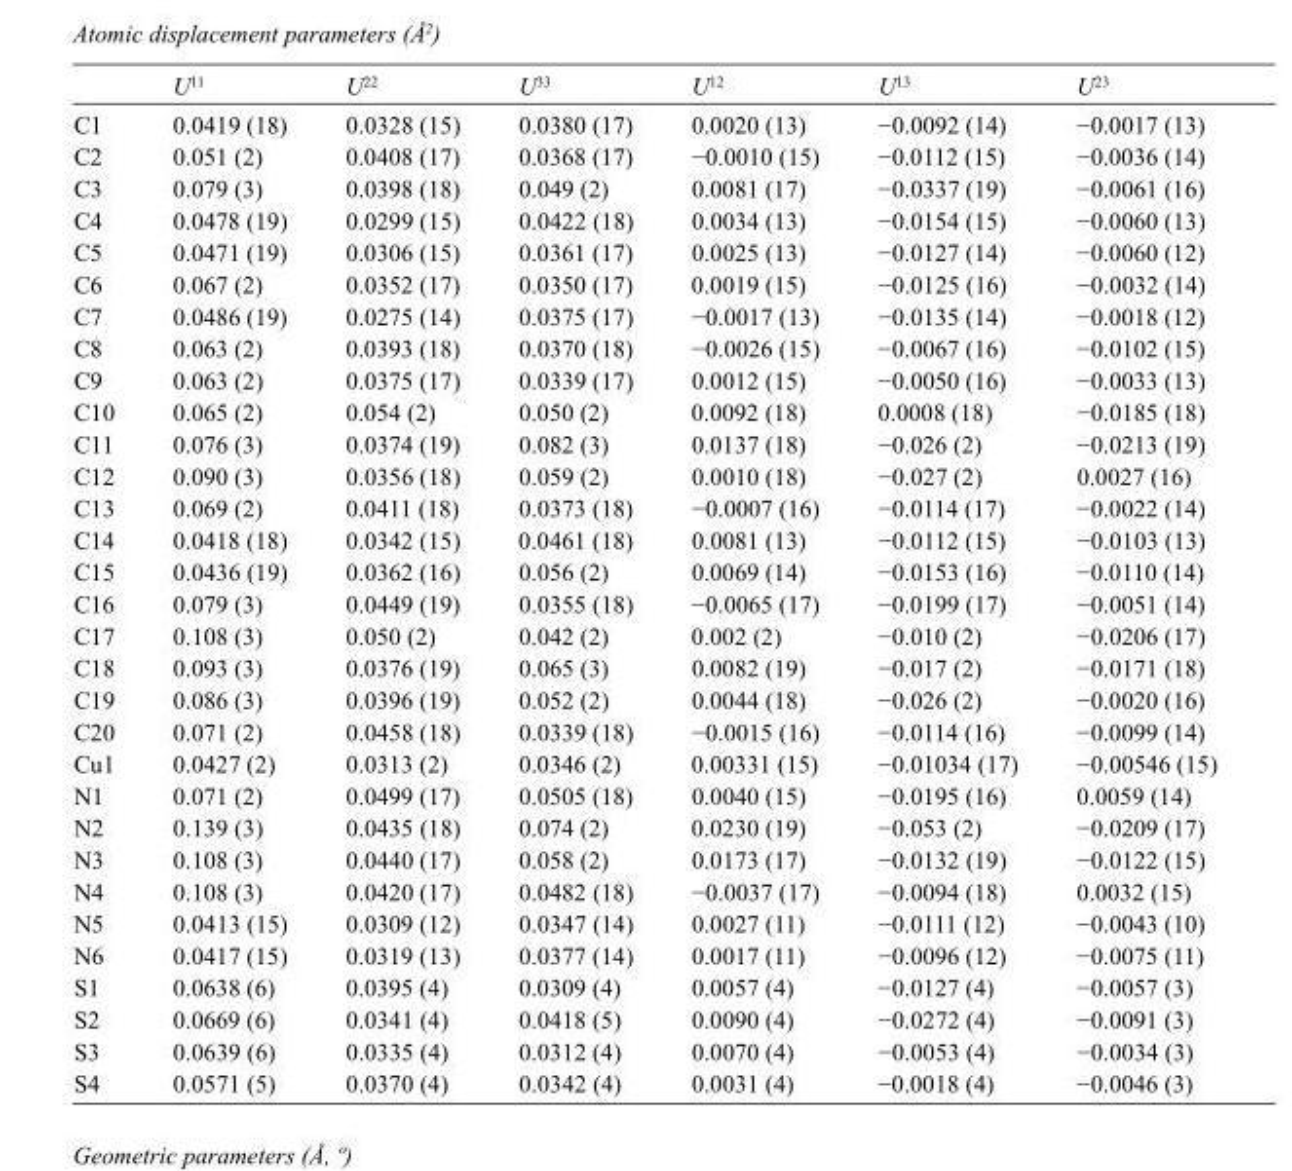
<table><thead><tr><td></td><td>U<sup>11</sup></td><td>U<sup>22</sup></td><td>U<sup>33</sup></td><td>U<sup>12</sup></td><td>U<sup>13</sup></td><td>U<sup>23</sup></td></tr></thead><tbody><tr><td>C1</td><td>0.0419 (18)</td><td>0.0328 (15)</td><td>0.0380 (17)</td><td>0.0020 (13)</td><td>−0.0092 (14)</td><td>−0.0017 (13)</td></tr><tr><td>C2</td><td>0.051 (2)</td><td>0.0408 (17)</td><td>0.0368 (17)</td><td>−0.0010 (15)</td><td>−0.0112 (15)</td><td>−0.0036 (14)</td></tr><tr><td>C3</td><td>0.079 (3)</td><td>0.0398 (18)</td><td>0.049 (2)</td><td>0.0081 (17)</td><td>−0.0337 (19)</td><td>−0.0061 (16)</td></tr><tr><td>C4</td><td>0.0478 (19)</td><td>0.0299 (15)</td><td>0.0422 (18)</td><td>0.0034 (13)</td><td>−0.0154 (15)</td><td>−0.0060 (13)</td></tr><tr><td>C5</td><td>0.0471 (19)</td><td>0.0306 (15)</td><td>0.0361 (17)</td><td>0.0025 (13)</td><td>−0.0127 (14)</td><td>−0.0060 (12)</td></tr><tr><td>C6</td><td>0.067 (2)</td><td>0.0352 (17)</td><td>0.0350 (17)</td><td>0.0019 (15)</td><td>−0.0125 (16)</td><td>−0.0032 (14)</td></tr><tr><td>C7</td><td>0.0486 (19)</td><td>0.0275 (14)</td><td>0.0375 (17)</td><td>−0.0017 (13)</td><td>−0.0135 (14)</td><td>−0.0018 (12)</td></tr><tr><td>C8</td><td>0.063 (2)</td><td>0.0393 (18)</td><td>0.0370 (18)</td><td>−0.0026 (15)</td><td>−0.0067 (16)</td><td>−0.0102 (15)</td></tr><tr><td>C9</td><td>0.063 (2)</td><td>0.0375 (17)</td><td>0.0339 (17)</td><td>0.0012 (15)</td><td>−0.0050 (16)</td><td>−0.0033 (13)</td></tr><tr><td>C10</td><td>0.065 (2)</td><td>0.054 (2)</td><td>0.050 (2)</td><td>0.0092 (18)</td><td>0.0008 (18)</td><td>−0.0185 (18)</td></tr><tr><td>C11</td><td>0.076 (3)</td><td>0.0374 (19)</td><td>0.082 (3)</td><td>0.0137 (18)</td><td>−0.026 (2)</td><td>−0.0213 (19)</td></tr><tr><td>C12</td><td>0.090 (3)</td><td>0.0356 (18)</td><td>0.059 (2)</td><td>0.0010 (18)</td><td>−0.027 (2)</td><td>0.0027 (16)</td></tr><tr><td>C13</td><td>0.069 (2)</td><td>0.0411 (18)</td><td>0.0373 (18)</td><td>−0.0007 (16)</td><td>−0.0114 (17)</td><td>−0.0022 (14)</td></tr><tr><td>C14</td><td>0.0418 (18)</td><td>0.0342 (15)</td><td>0.0461 (18)</td><td>0.0081 (13)</td><td>−0.0112 (15)</td><td>−0.0103 (13)</td></tr><tr><td>C15</td><td>0.0436 (19)</td><td>0.0362 (16)</td><td>0.056 (2)</td><td>0.0069 (14)</td><td>−0.0153 (16)</td><td>−0.0110 (14)</td></tr><tr><td>C16</td><td>0.079 (3)</td><td>0.0449 (19)</td><td>0.0355 (18)</td><td>−0.0065 (17)</td><td>−0.0199 (17)</td><td>−0.0051 (14)</td></tr><tr><td>C17</td><td>0.108 (3)</td><td>0.050 (2)</td><td>0.042 (2)</td><td>0.002 (2)</td><td>−0.010 (2)</td><td>−0.0206 (17)</td></tr><tr><td>C18</td><td>0.093 (3)</td><td>0.0376 (19)</td><td>0.065 (3)</td><td>0.0082 (19)</td><td>−0.017 (2)</td><td>−0.0171 (18)</td></tr><tr><td>C19</td><td>0.086 (3)</td><td>0.0396 (19)</td><td>0.052 (2)</td><td>0.0044 (18)</td><td>−0.026 (2)</td><td>−0.0020 (16)</td></tr><tr><td>C20</td><td>0.071 (2)</td><td>0.0458 (18)</td><td>0.0339 (18)</td><td>−0.0015 (16)</td><td>−0.0114 (16)</td><td>−0.0099 (14)</td></tr><tr><td>Cu1</td><td>0.0427 (2)</td><td>0.0313 (2)</td><td>0.0346 (2)</td><td>0.00331 (15)</td><td>−0.01034 (17)</td><td>−0.00546 (15)</td></tr><tr><td>N1</td><td>0.071 (2)</td><td>0.0499 (17)</td><td>0.0505 (18)</td><td>0.0040 (15)</td><td>−0.0195 (16)</td><td>0.0059 (14)</td></tr><tr><td>N2</td><td>0.139 (3)</td><td>0.0435 (18)</td><td>0.074 (2)</td><td>0.0230 (19)</td><td>−0.053 (2)</td><td>−0.0209 (17)</td></tr><tr><td>N3</td><td>0.108 (3)</td><td>0.0440 (17)</td><td>0.058 (2)</td><td>0.0173 (17)</td><td>−0.0132 (19)</td><td>−0.0122 (15)</td></tr><tr><td>N4</td><td>0.108 (3)</td><td>0.0420 (17)</td><td>0.0482 (18)</td><td>−0.0037 (17)</td><td>−0.0094 (18)</td><td>0.0032 (15)</td></tr><tr><td>N5</td><td>0.0413 (15)</td><td>0.0309 (12)</td><td>0.0347 (14)</td><td>0.0027 (11)</td><td>−0.0111 (12)</td><td>−0.0043 (10)</td></tr><tr><td>N6</td><td>0.0417 (15)</td><td>0.0319 (13)</td><td>0.0377 (14)</td><td>0.0017 (11)</td><td>−0.0096 (12)</td><td>−0.0075 (11)</td></tr><tr><td>S1</td><td>0.0638 (6)</td><td>0.0395 (4)</td><td>0.0309 (4)</td><td>0.0057 (4)</td><td>−0.0127 (4)</td><td>−0.0057 (3)</td></tr><tr><td>S2</td><td>0.0669 (6)</td><td>0.0341 (4)</td><td>0.0418 (5)</td><td>0.0090 (4)</td><td>−0.0272 (4)</td><td>−0.0091 (3)</td></tr><tr><td>S3</td><td>0.0639 (6)</td><td>0.0335 (4)</td><td>0.0312 (4)</td><td>0.0070 (4)</td><td>−0.0053 (4)</td><td>−0.0034 (3)</td></tr><tr><td>S4</td><td>0.0571 (5)</td><td>0.0370 (4)</td><td>0.0342 (4)</td><td>0.0031 (4)</td><td>−0.0018 (4)</td><td>−0.0046 (3)</td></tr></tbody></table>